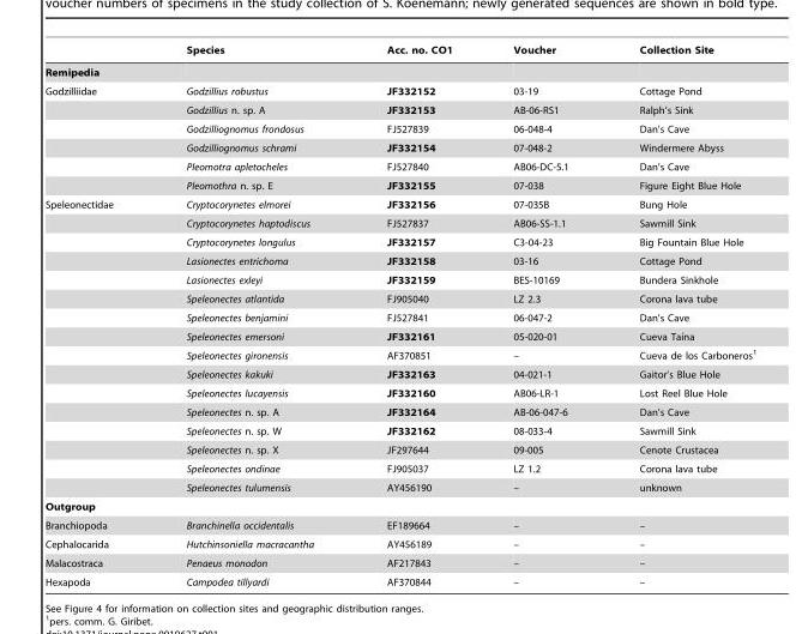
<table><thead><tr><td></td><td>Species</td><td>Acc. no. CO1</td><td>Voucher</td><td>Collection Site</td></tr></thead><tbody><tr><td colspan="5">Remipedia</td></tr><tr><td rowspan="6">Godzilliidae</td><td>Godzillius robustus</td><td>JF332152</td><td>03-19</td><td>Cottage Pond</td></tr><tr><td>Godzillius n. sp. A</td><td>JF332153</td><td>AB-06-RS1</td><td>Ralph’s Sink</td></tr><tr><td>Godzilliognomus frondosus</td><td>FJ527839</td><td>06-048-4</td><td>Dan’s Cave</td></tr><tr><td>Godzilliognomus schrami</td><td>JF332154</td><td>07-048-2</td><td>Windermere Abyss</td></tr><tr><td>Pleomotra apletocheles</td><td>FJ527840</td><td>AB06-DC-5.1</td><td>Dan’s Cave</td></tr><tr><td>Pleomothra n. sp. E</td><td>JF332155</td><td>07-038</td><td>Figure Eight Blue Hole</td></tr><tr><td rowspan="16">Speleonectidae</td><td>Cryptocorynetes elmorei</td><td>JF332156</td><td>07-035B</td><td>Bung Hole</td></tr><tr><td>Cryptocorynetes haptodiscus</td><td>FJ527837</td><td>AB06-SS-1.1</td><td>Sawmill Sink</td></tr><tr><td>Cryptocorynetes longulus</td><td>JF332157</td><td>C3-04-23</td><td>Big Fountain Blue Hole</td></tr><tr><td>Lasionectes entrichoma</td><td>JF332158</td><td>03-16</td><td>Cottage Pond</td></tr><tr><td>Lasionectes exleyi</td><td>JF332159</td><td>BES-10169</td><td>Bundera Sinkhole</td></tr><tr><td>Speleonectes atlantida</td><td>FJ905040</td><td>LZ 2.3</td><td>Corona lava tube</td></tr><tr><td>Speleonectes benjamini</td><td>FJ527841</td><td>06-047-2</td><td>Dan’s Cave</td></tr><tr><td>Speleonectes emersoni</td><td>JF332161</td><td>05-020-01</td><td>Cueva Taı´na</td></tr><tr><td>Speleonectes gironensis</td><td>AF370851</td><td>–</td><td>Cueva de los Carboneros<sup>1</sup></td></tr><tr><td>Speleonectes kakuki</td><td>JF332163</td><td>04-021-1</td><td>Gaitor’s Blue Hole</td></tr><tr><td>Speleonectes lucayensis</td><td>JF332160</td><td>AB06-LR-1</td><td>Lost Reel Blue Hole</td></tr><tr><td>Speleonectes n. sp. A</td><td>JF332164</td><td>AB-06-047-6</td><td>Dan’s Cave</td></tr><tr><td>Speleonectes n. sp. W</td><td>JF332162</td><td>08-033-4</td><td>Sawmill Sink</td></tr><tr><td>Speleonectes n. sp. X</td><td>JF297644</td><td>09-005</td><td>Cenote Crustacea</td></tr><tr><td>Speleonectes ondinae</td><td>FJ905037</td><td>LZ 1.2</td><td>Corona lava tube</td></tr><tr><td>Speleonectes tulumensis</td><td>AY456190</td><td>–</td><td>unknown</td></tr><tr><td colspan="5">Outgroup</td></tr><tr><td>Branchiopoda</td><td>Branchinella occidentalis</td><td>EF189664</td><td>–</td><td>–</td></tr><tr><td>Cephalocarida</td><td>Hutchinsoniella macracantha</td><td>AY456189</td><td>–</td><td>–</td></tr><tr><td>Malacostraca</td><td>Penaeus monodon</td><td>AF217843</td><td>–</td><td>–</td></tr><tr><td>Hexapoda</td><td>Campodea tillyardi</td><td>AF370844</td><td>–</td><td>–</td></tr></tbody></table>